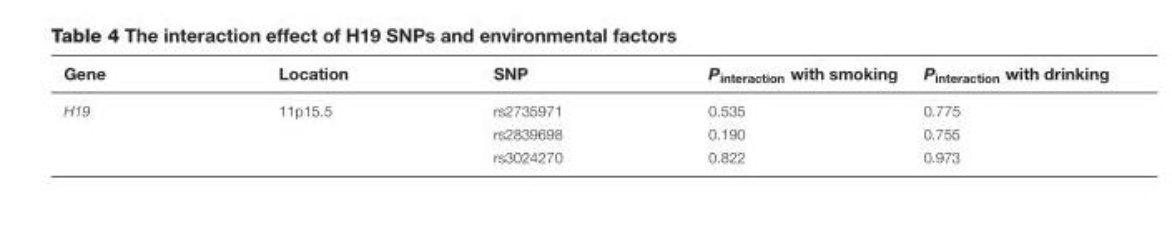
<table><thead><tr><td>Gene</td><td>Location</td><td>SNP</td><td>P<sub>interaction</sub> with smoking</td><td>P<sub>interaction</sub> with drinking</td></tr></thead><tbody><tr><td rowspan="3">H19</td><td>11p15.5</td><td>rs2735971</td><td>0.535</td><td>0.775</td></tr><tr><td></td><td>rs2839698</td><td>0.190</td><td>0.755</td></tr><tr><td></td><td>rs3024270</td><td>0.822</td><td>0.973</td></tr></tbody></table>